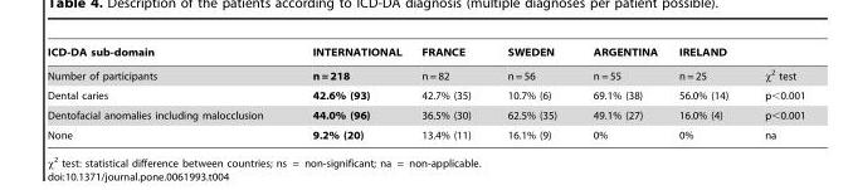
<table><thead><tr><td>ICD-DA sub-domain</td><td>INTERNATIONAL</td><td>FRANCE</td><td>SWEDEN</td><td>ARGENTINA</td><td>IRELAND</td><td></td></tr></thead><tbody><tr><td>Number of participants</td><td>n = 218</td><td>n = 82</td><td>n = 56</td><td>n = 55</td><td>n = 25</td><td>x2 test</td></tr><tr><td>Dental caries</td><td>42.6% (93)</td><td>42.7% (35)</td><td>10.7% (6)</td><td>69.1% (38)</td><td>56.0% (14)</td><td>p&lt;0.001</td></tr><tr><td>Dentofacial anomalies including malocclusion</td><td>44.0% (96)</td><td>36.5% (30)</td><td>62.5% (35)</td><td>49.1% (27)</td><td>16.0% (4)</td><td>p&lt;0.001</td></tr><tr><td>None</td><td>9.2% (20)</td><td>13.4% (11)</td><td>16.1% (9)</td><td>0%</td><td>0%</td><td>na</td></tr></tbody></table>